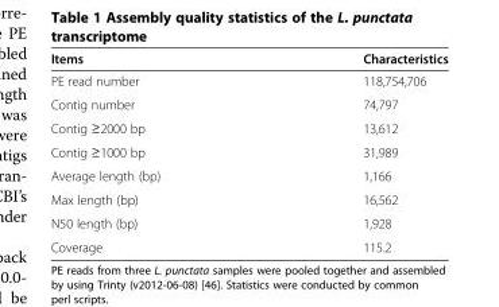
<table><thead><tr><td>Items</td><td>Characteristics</td></tr></thead><tbody><tr><td>PE read number</td><td>118,754,706</td></tr><tr><td>Contig number</td><td>74,797</td></tr><tr><td>Contig ≥2000 bp</td><td>13,612</td></tr><tr><td>Contig ≥1000 bp</td><td>31,989</td></tr><tr><td>Average length (bp)</td><td>1,166</td></tr><tr><td>Max length (bp)</td><td>16,562</td></tr><tr><td>N50 length (bp)</td><td>1,928</td></tr><tr><td>Coverage</td><td>115.2</td></tr></tbody></table>